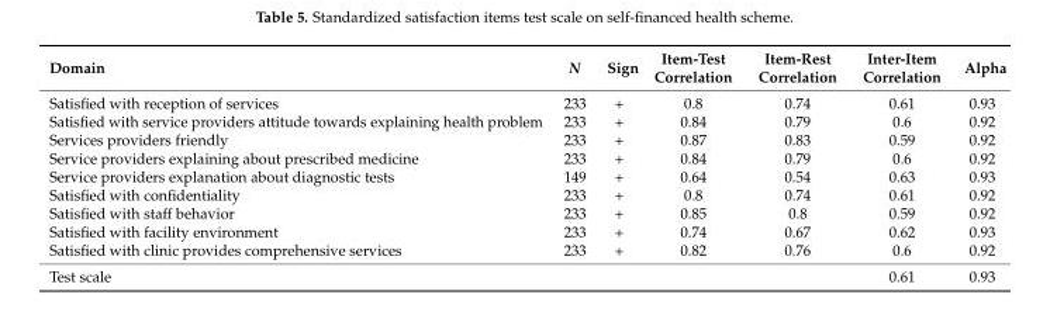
<table><thead><tr><td>Domain</td><td>N</td><td>Sign</td><td>Item-Test Correlation</td><td>Item-Rest Correlation</td><td>Inter-Item Correlation</td><td>Alpha</td></tr></thead><tbody><tr><td>Satisfied with reception of services</td><td>233</td><td>+</td><td>0.8</td><td>0.74</td><td>0.61</td><td>0.93</td></tr><tr><td>Satisfied with service providers attitude towards explaining health problem</td><td>233</td><td>+</td><td>0.84</td><td>0.79</td><td>0.6</td><td>0.92</td></tr><tr><td>Services providers friendly</td><td>233</td><td>+</td><td>0.87</td><td>0.83</td><td>0.59</td><td>0.92</td></tr><tr><td>Service providers explaining about prescribed medicine</td><td>233</td><td>+</td><td>0.84</td><td>0.79</td><td>0.6</td><td>0.92</td></tr><tr><td>Service providers explanation about diagnostic tests</td><td>149</td><td>+</td><td>0.64</td><td>0.54</td><td>0.63</td><td>0.93</td></tr><tr><td>Satisfied with confidentiality</td><td>233</td><td>+</td><td>0.8</td><td>0.74</td><td>0.61</td><td>0.92</td></tr><tr><td>Satisfied with staff behavior</td><td>233</td><td>+</td><td>0.85</td><td>0.8</td><td>0.59</td><td>0.92</td></tr><tr><td>Satisfied with facility environment</td><td>233</td><td>+</td><td>0.74</td><td>0.67</td><td>0.62</td><td>0.93</td></tr><tr><td>Satisfied with clinic provides comprehensive services</td><td>233</td><td>+</td><td>0.82</td><td>0.76</td><td>0.6</td><td>0.92</td></tr><tr><td>Test scale</td><td></td><td></td><td></td><td></td><td>0.61</td><td>0.93</td></tr></tbody></table>